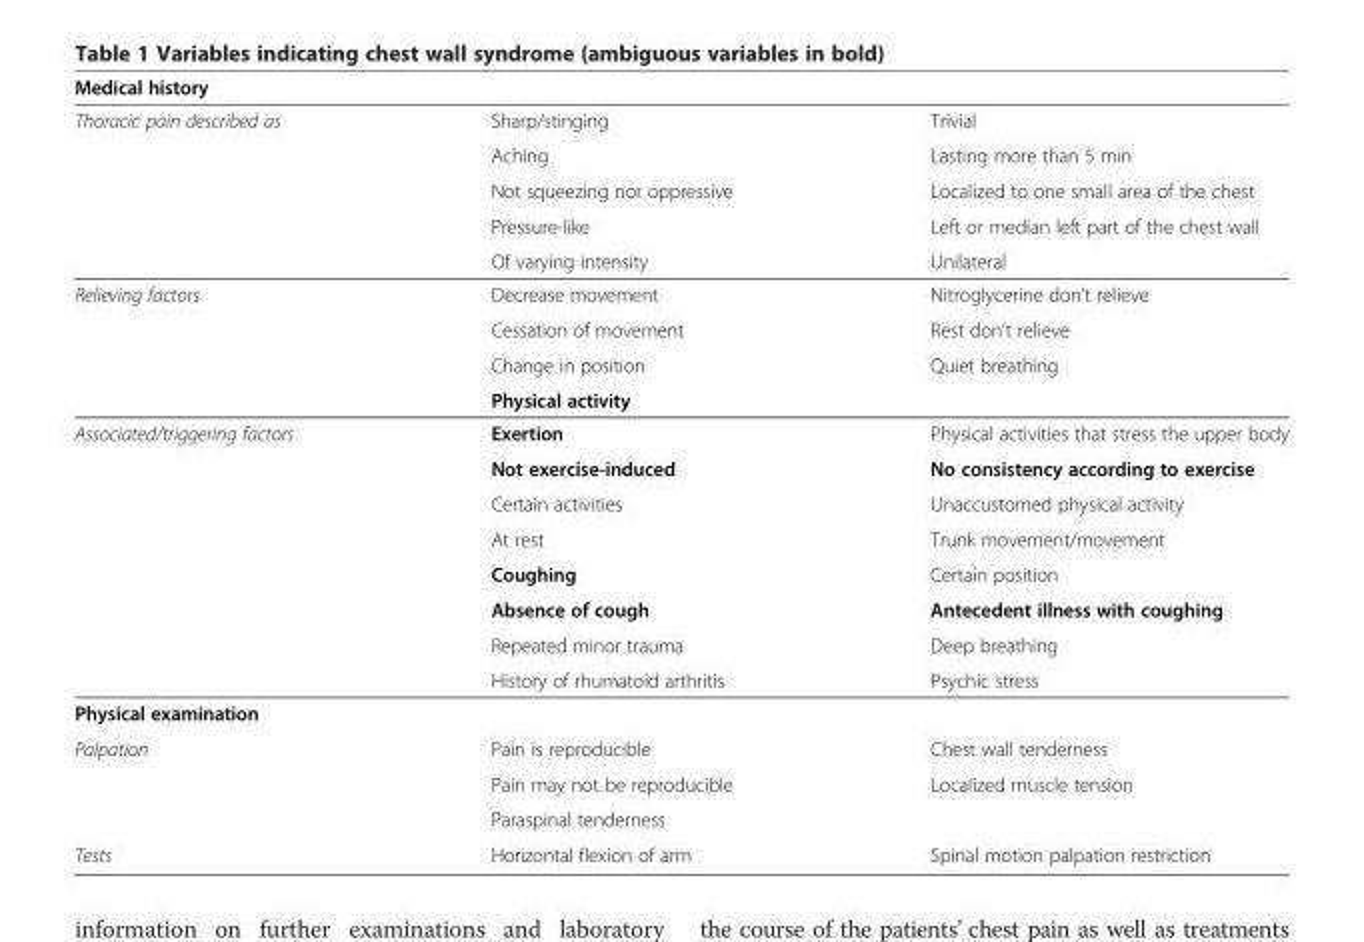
<table><thead><tr><td>Medical history</td><td></td><td></td></tr></thead><tbody><tr><td rowspan="5">Thoracic pain described as</td><td>Sharp/stinging</td><td>Trivial</td></tr><tr><td>Aching</td><td>Lasting more than 5 min</td></tr><tr><td>Not squeezing nor oppressive</td><td>Localized to one small area of the chest</td></tr><tr><td>Pressure-like</td><td>Left or median left part of the chest wall</td></tr><tr><td>Of varying intensity</td><td>Unilateral</td></tr><tr><td rowspan="4">Relieving factors</td><td>Decrease movement</td><td>Nitroglycerine don’t relieve</td></tr><tr><td>Cessation of movement</td><td>Rest don’t relieve</td></tr><tr><td>Change in position</td><td>Quiet breathing</td></tr><tr><td>Physical activity</td><td></td></tr><tr><td rowspan="8">Associated/triggering factors</td><td>Exertion</td><td>Physical activities that stress the upper body</td></tr><tr><td>Not exercise-induced</td><td>No consistency according to exercise</td></tr><tr><td>Certain activities</td><td>Unaccustomed physical activity</td></tr><tr><td>At rest</td><td>Trunk movement/movement</td></tr><tr><td>Coughing</td><td>Certain position</td></tr><tr><td>Absence of cough</td><td>Antecedent illness with coughing</td></tr><tr><td>Repeated minor trauma</td><td>Deep breathing</td></tr><tr><td>History of rhumatoid arthritis</td><td>Psychic stress</td></tr><tr><td colspan="3">Physical examination</td></tr><tr><td rowspan="3">Palpation</td><td>Pain is reproducible</td><td>Chest wall tenderness</td></tr><tr><td>Pain may not be reproducible</td><td>Localized muscle tension</td></tr><tr><td>Paraspinal tenderness</td><td></td></tr><tr><td>Tests</td><td>Horizontal flexion of arm</td><td>Spinal motion palpation restriction</td></tr></tbody></table>